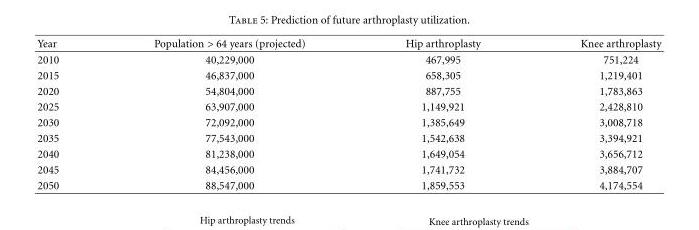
<table><thead><tr><td>Year</td><td>Population &gt; 64 years (projected)</td><td>Hip arthroplasty</td><td>Knee arthroplasty</td></tr></thead><tbody><tr><td>2010</td><td>40,229,000</td><td>467,995</td><td>751,224</td></tr><tr><td>2015</td><td>46,837,000</td><td>658,305</td><td>1,219,401</td></tr><tr><td>2020</td><td>54,804,000</td><td>887,755</td><td>1,783,863</td></tr><tr><td>2025</td><td>63,907,000</td><td>1,149,921</td><td>2,428,810</td></tr><tr><td>2030</td><td>72,092,000</td><td>1,385,649</td><td>3,008,718</td></tr><tr><td>2035</td><td>77,543,000</td><td>1,542,638</td><td>3,394,921</td></tr><tr><td>2040</td><td>81,238,000</td><td>1,649,054</td><td>3,656,712</td></tr><tr><td>2045</td><td>84,456,000</td><td>1,741,732</td><td>3,884,707</td></tr><tr><td>2050</td><td>88,547,000</td><td>1,859,553</td><td>4,174,554</td></tr></tbody></table>